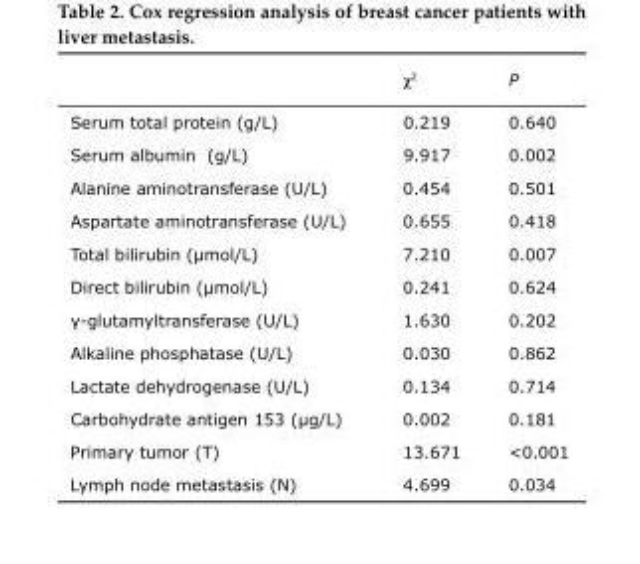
<table><thead><tr><td></td><td>χ<sup>2</sup></td><td>P</td></tr></thead><tbody><tr><td>Serum total protein (g/L)</td><td>0.219</td><td>0.640</td></tr><tr><td>Serum albumin (g/L)</td><td>9.917</td><td>0.002</td></tr><tr><td>Alanine aminotransferase (U/L)</td><td>0.454</td><td>0.501</td></tr><tr><td>Aspartate aminotransferase (U/L)</td><td>0.655</td><td>0.418</td></tr><tr><td>Total bilirubin (μmol/L)</td><td>7.210</td><td>0.007</td></tr><tr><td>Direct bilirubin (μmol/L)</td><td>0.241</td><td>0.624</td></tr><tr><td>γ-glutamyltransferase (U/L)</td><td>1.630</td><td>0.202</td></tr><tr><td>Alkaline phosphatase (U/L)</td><td>0.030</td><td>0.862</td></tr><tr><td>Lactate dehydrogenase (U/L)</td><td>0.134</td><td>0.714</td></tr><tr><td>Carbohydrate antigen 153 (μg/L)</td><td>0.002</td><td>0.181</td></tr><tr><td>Primary tumor (T)</td><td>13.671</td><td>&lt;0.001</td></tr><tr><td>Lymph node metastasis (N)</td><td>4.699</td><td>0.034</td></tr></tbody></table>